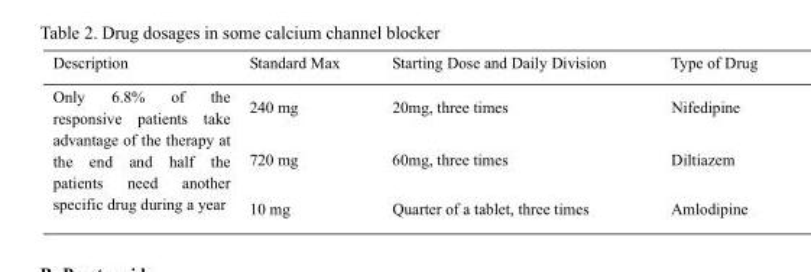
<table><thead><tr><td>Description</td><td>Standard Max</td><td>Starting Dose and Daily Division</td><td>Type of Drug</td></tr></thead><tbody><tr><td rowspan="3">Only 6.8% of the responsive patients take advantage of the therapy at the end and half the patients need another specific drug during a year</td><td>240 mg</td><td>20mg, three times</td><td>Nifedipine</td></tr><tr><td>720 mg</td><td>60mg, three times</td><td>Diltiazem</td></tr><tr><td>10 mg</td><td>Quarter of a tablet, three times</td><td>Amlodipine</td></tr></tbody></table>